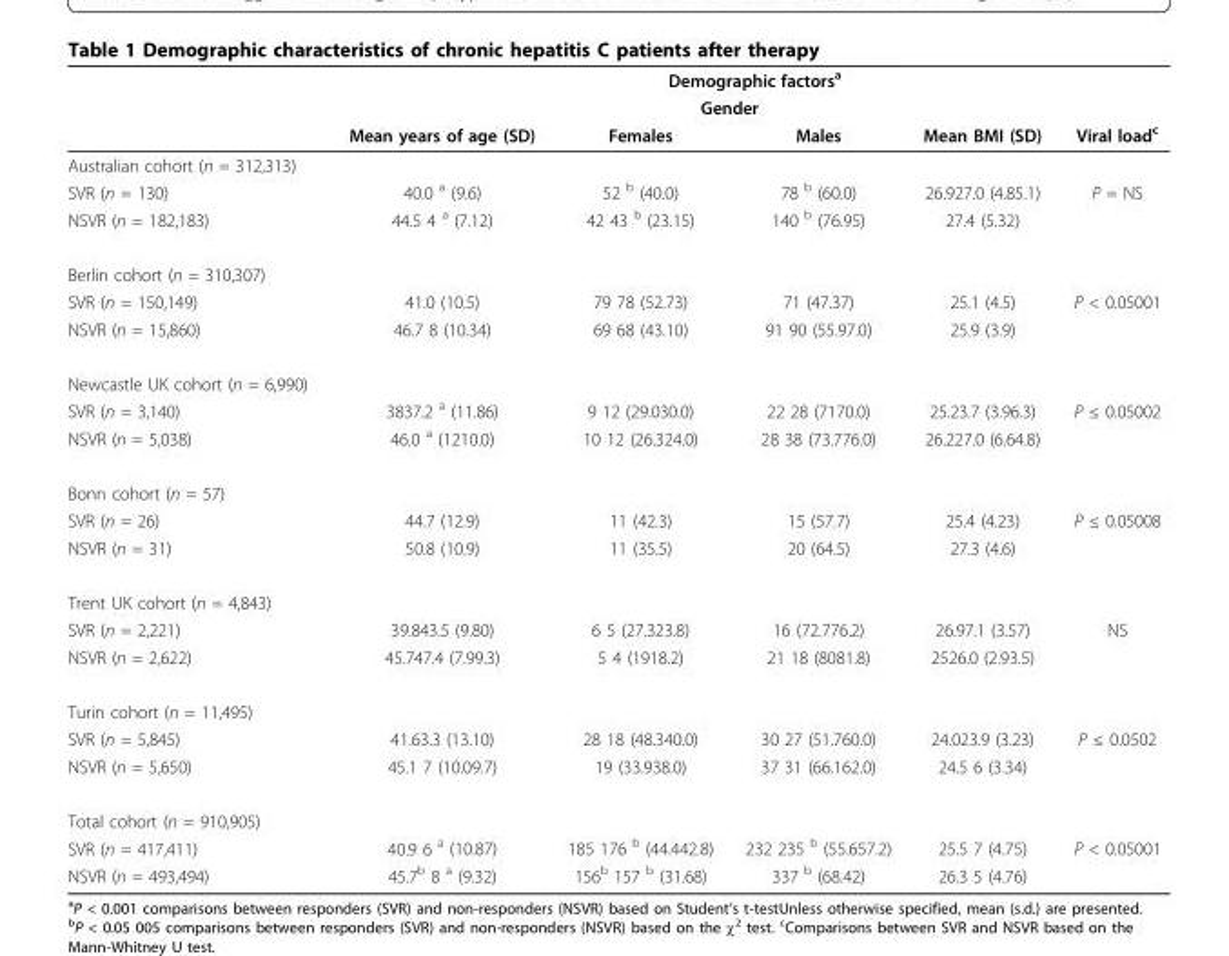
<table><thead><tr><td rowspan="3"></td><td colspan="5">Demographic factors<sup>a</sup></td></tr><tr><td rowspan="2">Mean years of age (SD)</td><td colspan="2">Gender</td><td rowspan="2">Mean BMI (SD)</td><td rowspan="2">Viral load<sup>c</sup></td></tr><tr><td>Females</td><td>Males</td></tr></thead><tbody><tr><td colspan="6">Australian cohort (n = 312,313)</td></tr><tr><td>SVR (n = 130)</td><td>40.0 <sup>a</sup> (9.6)</td><td>52 <sup>b</sup> (40.0)</td><td>78 <sup>b</sup> (60.0)</td><td>26.927.0 (4.85.1)</td><td>P = NS</td></tr><tr><td>NSVR (n = 182,183)</td><td>44.5 4 <sup>a</sup> (7.12)</td><td>42 43 <sup>b</sup> (23.15)</td><td>140 <sup>b</sup> (76.95)</td><td>27.4 (5.32)</td><td></td></tr><tr><td colspan="6">Berlin cohort (n = 310,307)</td></tr><tr><td>SVR (n = 150,149)</td><td>41.0 (10.5)</td><td>79 78 (52.73)</td><td>71 (47.37)</td><td>25.1 (4.5)</td><td>P &lt; 0.05001</td></tr><tr><td>NSVR (n = 15,860)</td><td>46.7 8 (10.34)</td><td>69 68 (43.10)</td><td>91 90 (55.97.0)</td><td>25.9 (3.9)</td><td></td></tr><tr><td colspan="6">Newcastle UK cohort (n = 6,990)</td></tr><tr><td>SVR (n = 3,140)</td><td>3837.2 <sup>a</sup> (11.86)</td><td>9 12 (29.030.0)</td><td>22 28 (7170.0)</td><td>25.23.7 (3.96.3)</td><td>P ≤ 0.05002</td></tr><tr><td>NSVR (n = 5,038)</td><td>46.0 <sup>a</sup> (1210.0)</td><td>10 12 (26.324.0)</td><td>28 38 (73.776.0)</td><td>26.227.0 (6.64.8)</td><td></td></tr><tr><td colspan="6">Bonn cohort (n = 57)</td></tr><tr><td>SVR (n = 26)</td><td>44.7 (12.9)</td><td>11 (42.3)</td><td>15 (57.7)</td><td>25.4 (4.23)</td><td>P ≤ 0.05008</td></tr><tr><td>NSVR (n = 31)</td><td>50.8 (10.9)</td><td>11 (35.5)</td><td>20 (64.5)</td><td>27.3 (4.6)</td><td></td></tr><tr><td colspan="6">Trent UK cohort (n = 4,843)</td></tr><tr><td>SVR (n = 2,221)</td><td>39.843.5 (9.80)</td><td>6 5 (27.323.8)</td><td>16 (72.776.2)</td><td>26.97.1 (3.57)</td><td>NS</td></tr><tr><td>NSVR (n = 2,622)</td><td>45.747.4 (7.99.3)</td><td>5 4 (1918.2)</td><td>21 18 (8081.8)</td><td>2526.0 (2.93.5)</td><td></td></tr><tr><td colspan="6">Turin cohort (n = 11,495)</td></tr><tr><td>SVR (n = 5,845)</td><td>41.63.3 (13.10)</td><td>28 18 (48.340.0)</td><td>30 27 (51.760.0)</td><td>24.023.9 (3.23)</td><td>P ≤ 0.0502</td></tr><tr><td>NSVR (n = 5,650)</td><td>45.1 7 (10.09.7)</td><td>19 (33.938.0)</td><td>37 31 (66.162.0)</td><td>24.5 6 (3.34)</td><td></td></tr><tr><td colspan="6">Total cohort (n = 910,905)</td></tr><tr><td>SVR (n = 417,411)</td><td>40.9 6 <sup>a</sup> (10.87)</td><td>185 176 <sup>b</sup> (44.442.8)</td><td>232 235 <sup>b</sup> (55.657.2)</td><td>25.5 7 (4.75)</td><td>P &lt; 0.05001</td></tr><tr><td>NSVR (n = 493,494)</td><td>45.7<sup>b</sup> 8 <sup>a</sup> (9.32)</td><td>156<sup>b</sup> 157 <sup>b</sup> (31.68)</td><td>337 <sup>b</sup> (68.42)</td><td>26.3 5 (4.76)</td><td></td></tr></tbody></table>